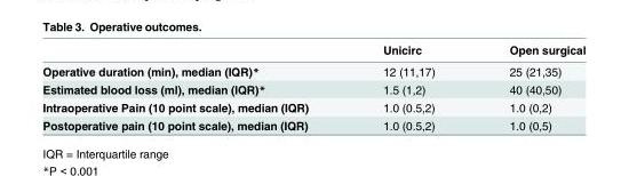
<table><thead><tr><td></td><td>Unicirc</td><td>Open surgical</td></tr></thead><tbody><tr><td>Operative duration (min), median (IQR)*</td><td>12 (11,17)</td><td>25 (21,35)</td></tr><tr><td>Estimated blood loss (ml), median (IQR)*</td><td>1.5 (1,2)</td><td>40 (40,50)</td></tr><tr><td>Intraoperative Pain (10 point scale), median (IQR)</td><td>1.0 (0.5,2)</td><td>1.0 (0,2)</td></tr><tr><td>Postoperative pain (10 point scale), median (IQR)</td><td>1.0 (0.5,2)</td><td>1.0 (0,5)</td></tr></tbody></table>